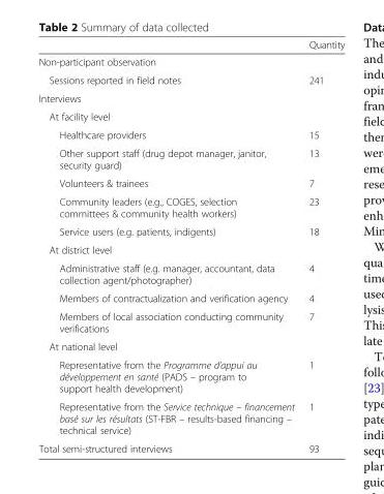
<table><thead><tr><td></td><td>Quantity</td></tr></thead><tbody><tr><td colspan="2">Non-participant observation</td></tr><tr><td>Sessions reported in field notes</td><td>241</td></tr><tr><td colspan="2">Interviews</td></tr><tr><td colspan="2">At facility level</td></tr><tr><td>Healthcare providers</td><td>15</td></tr><tr><td>Other support staff (drug depot manager, janitor, security guard)</td><td>13</td></tr><tr><td>Volunteers &amp; trainees</td><td>7</td></tr><tr><td>Community leaders (e.g., COGES, selection committees &amp; community health workers)</td><td>23</td></tr><tr><td>Service users (e.g. patients, indigents)</td><td>18</td></tr><tr><td colspan="2">At district level</td></tr><tr><td>Administrative staff (e.g. manager, accountant, data collection agent/photographer)</td><td>4</td></tr><tr><td>Members of contractualization and verification agency</td><td>4</td></tr><tr><td>Members of local association conducting community verifications</td><td>7</td></tr><tr><td colspan="2">At national level</td></tr><tr><td>Representative from the Programme d’appui au développement en santé (PADS – program to support health development)</td><td>1</td></tr><tr><td>Representative from the Service technique – financement basé sur les résultats (ST-FBR – results-based financing – technical service)</td><td>1</td></tr><tr><td>Total semi-structured interviews</td><td>93</td></tr></tbody></table>